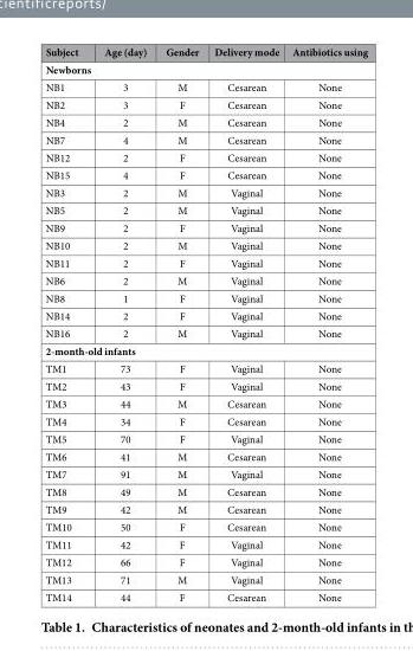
<table><thead><tr><td>Subject</td><td>Age (day)</td><td>Gender</td><td>Delivery mode</td><td>Antibiotics using</td></tr></thead><tbody><tr><td colspan="5">Newborns</td></tr><tr><td>NB1</td><td>3</td><td>M</td><td>Cesarean</td><td>None</td></tr><tr><td>NB2</td><td>3</td><td>F</td><td>Cesarean</td><td>None</td></tr><tr><td>NB4</td><td>2</td><td>M</td><td>Cesarean</td><td>None</td></tr><tr><td>NB7</td><td>4</td><td>M</td><td>Cesarean</td><td>None</td></tr><tr><td>NB12</td><td>2</td><td>F</td><td>Cesarean</td><td>None</td></tr><tr><td>NB15</td><td>4</td><td>F</td><td>Cesarean</td><td>None</td></tr><tr><td>NB3</td><td>2</td><td>M</td><td>Vaginal</td><td>None</td></tr><tr><td>NB5</td><td>2</td><td>M</td><td>Vaginal</td><td>None</td></tr><tr><td>NB9</td><td>2</td><td>F</td><td>Vaginal</td><td>None</td></tr><tr><td>NB10</td><td>2</td><td>M</td><td>Vaginal</td><td>None</td></tr><tr><td>NB11</td><td>2</td><td>F</td><td>Vaginal</td><td>None</td></tr><tr><td>NB6</td><td>2</td><td>M</td><td>Vaginal</td><td>None</td></tr><tr><td>NB8</td><td>1</td><td>F</td><td>Vaginal</td><td>None</td></tr><tr><td>NB14</td><td>2</td><td>F</td><td>Vaginal</td><td>None</td></tr><tr><td>NB16</td><td>2</td><td>M</td><td>Vaginal</td><td>None</td></tr><tr><td colspan="5">2-month-old infants</td></tr><tr><td>TM1</td><td>73</td><td>F</td><td>Vaginal</td><td>None</td></tr><tr><td>TM2</td><td>43</td><td>F</td><td>Vaginal</td><td>None</td></tr><tr><td>TM3</td><td>44</td><td>M</td><td>Cesarean</td><td>None</td></tr><tr><td>TM4</td><td>34</td><td>F</td><td>Cesarean</td><td>None</td></tr><tr><td>TM5</td><td>70</td><td>F</td><td>Vaginal</td><td>None</td></tr><tr><td>TM6</td><td>41</td><td>M</td><td>Cesarean</td><td>None</td></tr><tr><td>TM7</td><td>91</td><td>M</td><td>Vaginal</td><td>None</td></tr><tr><td>TM8</td><td>49</td><td>M</td><td>Cesarean</td><td>None</td></tr><tr><td>TM9</td><td>42</td><td>M</td><td>Cesarean</td><td>None</td></tr><tr><td>TM10</td><td>50</td><td>F</td><td>Cesarean</td><td>None</td></tr><tr><td>TM11</td><td>42</td><td>F</td><td>Vaginal</td><td>None</td></tr><tr><td>TM12</td><td>66</td><td>F</td><td>Vaginal</td><td>None</td></tr><tr><td>TM13</td><td>71</td><td>M</td><td>Vaginal</td><td>None</td></tr><tr><td>TM14</td><td>44</td><td>F</td><td>Cesarean</td><td>None</td></tr></tbody></table>